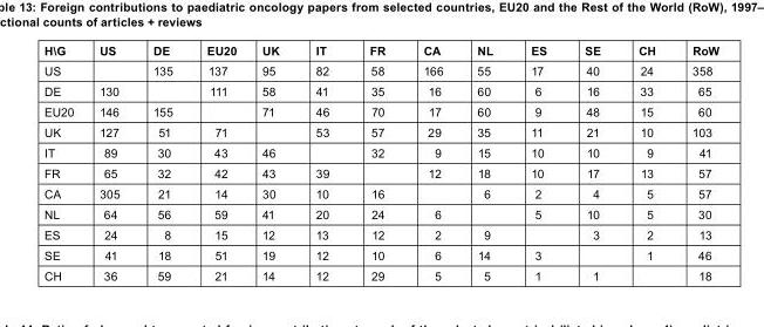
<table><thead><tr><td>H\G</td><td>US</td><td>DE</td><td>EU20</td><td>UK</td><td>IT</td><td>FR</td><td>CA</td><td>NL</td><td>ES</td><td>SE</td><td>CH</td><td>RoW</td></tr></thead><tbody><tr><td>US</td><td></td><td>135</td><td>137</td><td>95</td><td>82</td><td>58</td><td>166</td><td>55</td><td>17</td><td>40</td><td>24</td><td>358</td></tr><tr><td>DE</td><td>130</td><td></td><td>111</td><td>58</td><td>41</td><td>35</td><td>16</td><td>60</td><td>6</td><td>16</td><td>33</td><td>65</td></tr><tr><td>EU20</td><td>146</td><td>155</td><td></td><td>71</td><td>46</td><td>70</td><td>17</td><td>60</td><td>9</td><td>48</td><td>15</td><td>60</td></tr><tr><td>UK</td><td>127</td><td>51</td><td>71</td><td></td><td>53</td><td>57</td><td>29</td><td>35</td><td>11</td><td>21</td><td>10</td><td>103</td></tr><tr><td>IT</td><td>89</td><td>30</td><td>43</td><td>46</td><td></td><td>32</td><td>9</td><td>15</td><td>10</td><td>10</td><td>9</td><td>41</td></tr><tr><td>FR</td><td>65</td><td>32</td><td>42</td><td>43</td><td>39</td><td></td><td>12</td><td>18</td><td>10</td><td>17</td><td>13</td><td>57</td></tr><tr><td>CA</td><td>305</td><td>21</td><td>14</td><td>30</td><td>10</td><td>16</td><td></td><td>6</td><td>2</td><td>4</td><td>5</td><td>57</td></tr><tr><td>NL</td><td>64</td><td>56</td><td>59</td><td>41</td><td>20</td><td>24</td><td>6</td><td></td><td>5</td><td>10</td><td>5</td><td>30</td></tr><tr><td>ES</td><td>24</td><td>8</td><td>15</td><td>12</td><td>13</td><td>12</td><td>2</td><td>9</td><td></td><td>3</td><td>2</td><td>13</td></tr><tr><td>SE</td><td>41</td><td>18</td><td>51</td><td>19</td><td>12</td><td>10</td><td>6</td><td>14</td><td>3</td><td></td><td>1</td><td>46</td></tr><tr><td>CH</td><td>36</td><td>59</td><td>21</td><td>14</td><td>12</td><td>29</td><td>5</td><td>5</td><td>1</td><td>1</td><td></td><td>18</td></tr></tbody></table>